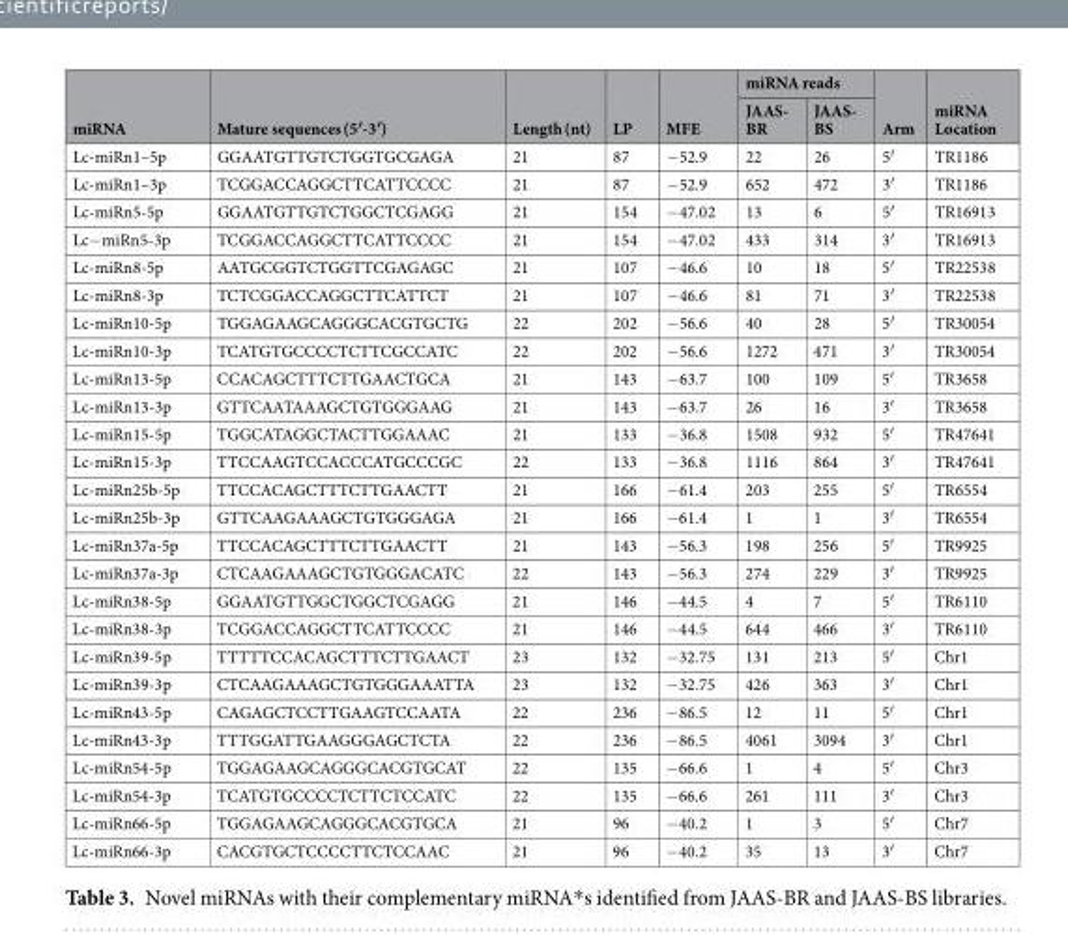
<table><thead><tr><td rowspan="2">miRNA</td><td rowspan="2">Mature sequences (5′-3′)</td><td rowspan="2">Length (nt)</td><td rowspan="2">LP</td><td rowspan="2">MFE</td><td colspan="2">miRNA reads</td><td rowspan="2">Arm</td><td rowspan="2">miRNA Location</td></tr><tr><td>JAAS- BR</td><td>JAAS- BS</td></tr></thead><tbody><tr><td>Lc-miRn1–5p</td><td>GGAATGTTGTCTGGTGCGAGA</td><td>21</td><td>87</td><td>−52.9</td><td>22</td><td>26</td><td>5′</td><td>TR1186</td></tr><tr><td>Lc-miRn1–3p</td><td>TCGGACCAGGCTTCATTCCCC</td><td>21</td><td>87</td><td>−52.9</td><td>652</td><td>472</td><td>3′</td><td>TR1186</td></tr><tr><td>Lc-miRn5-5p</td><td>GGAATGTTGTCTGGCTCGAGG</td><td>21</td><td>154</td><td>−47.02</td><td>13</td><td>6</td><td>5′</td><td>TR16913</td></tr><tr><td>Lc−miRn5-3p</td><td>TCGGACCAGGCTTCATTCCCC</td><td>21</td><td>154</td><td>−47.02</td><td>433</td><td>314</td><td>3′</td><td>TR16913</td></tr><tr><td>Lc-miRn8-5p</td><td>AATGCGGTCTGGTTCGAGAGC</td><td>21</td><td>107</td><td>−46.6</td><td>10</td><td>18</td><td>5′</td><td>TR22538</td></tr><tr><td>Lc-miRn8-3p</td><td>TCTCGGACCAGGCTTCATTCT</td><td>21</td><td>107</td><td>−46.6</td><td>81</td><td>71</td><td>3′</td><td>TR22538</td></tr><tr><td>Lc-miRn10-5p</td><td>TGGAGAAGCAGGGCACGTGCTG</td><td>22</td><td>202</td><td>−56.6</td><td>40</td><td>28</td><td>5′</td><td>TR30054</td></tr><tr><td>Lc-miRn10-3p</td><td>TCATGTGCCCCTCTTCGCCATC</td><td>22</td><td>202</td><td>−56.6</td><td>1272</td><td>471</td><td>3′</td><td>TR30054</td></tr><tr><td>Lc-miRn13-5p</td><td>CCACAGCTTTCTTGAACTGCA</td><td>21</td><td>143</td><td>−63.7</td><td>100</td><td>109</td><td>5′</td><td>TR3658</td></tr><tr><td>Lc-miRn13-3p</td><td>GTTCAATAAAGCTGTGGGAAG</td><td>21</td><td>143</td><td>−63.7</td><td>26</td><td>16</td><td>3′</td><td>TR3658</td></tr><tr><td>Lc-miRn15-5p</td><td>TGGCATAGGCTACTTGGAAAC</td><td>21</td><td>133</td><td>−36.8</td><td>1508</td><td>932</td><td>5′</td><td>TR47641</td></tr><tr><td>Lc-miRn15-3p</td><td>TTCCAAGTCCACCCATGCCCGC</td><td>22</td><td>133</td><td>−36.8</td><td>1116</td><td>864</td><td>3′</td><td>TR47641</td></tr><tr><td>Lc-miRn25b-5p</td><td>TTCCACAGCTTTCTTGAACTT</td><td>21</td><td>166</td><td>−61.4</td><td>203</td><td>255</td><td>5′</td><td>TR6554</td></tr><tr><td>Lc-miRn25b-3p</td><td>GTTCAAGAAAGCTGTGGGAGA</td><td>21</td><td>166</td><td>−61.4</td><td>1</td><td>1</td><td>3′</td><td>TR6554</td></tr><tr><td>Lc-miRn37a-5p</td><td>TTCCACAGCTTTCTTGAACTT</td><td>21</td><td>143</td><td>−56.3</td><td>198</td><td>256</td><td>5′</td><td>TR9925</td></tr><tr><td>Lc-miRn37a-3p</td><td>CTCAAGAAAGCTGTGGGACATC</td><td>22</td><td>143</td><td>−56.3</td><td>274</td><td>229</td><td>3′</td><td>TR9925</td></tr><tr><td>Lc-miRn38-5p</td><td>GGAATGTTGGCTGGCTCGAGG</td><td>21</td><td>146</td><td>−44.5</td><td>4</td><td>7</td><td>5′</td><td>TR6110</td></tr><tr><td>Lc-miRn38-3p</td><td>TCGGACCAGGCTTCATTCCCC</td><td>21</td><td>146</td><td>−44.5</td><td>644</td><td>466</td><td>3′</td><td>TR6110</td></tr><tr><td>Lc-miRn39-5p</td><td>TTTTTCCACAGCTTTCTTGAACT</td><td>23</td><td>132</td><td>−32.75</td><td>131</td><td>213</td><td>5′</td><td>Chr1</td></tr><tr><td>Lc-miRn39-3p</td><td>CTCAAGAAAGCTGTGGGAAATTA</td><td>23</td><td>132</td><td>−32.75</td><td>426</td><td>363</td><td>3′</td><td>Chr1</td></tr><tr><td>Lc-miRn43-5p</td><td>CAGAGCTCCTTGAAGTCCAATA</td><td>22</td><td>236</td><td>−86.5</td><td>12</td><td>11</td><td>5′</td><td>Chr1</td></tr><tr><td>Lc-miRn43-3p</td><td>TTTGGATTGAAGGGAGCTCTA</td><td>22</td><td>236</td><td>−86.5</td><td>4061</td><td>3094</td><td>3′</td><td>Chr1</td></tr><tr><td>Lc-miRn54-5p</td><td>TGGAGAAGCAGGGCACGTGCAT</td><td>22</td><td>135</td><td>−66.6</td><td>1</td><td>4</td><td>5′</td><td>Chr3</td></tr><tr><td>Lc-miRn54-3p</td><td>TCATGTGCCCCTCTTCTCCATC</td><td>22</td><td>135</td><td>−66.6</td><td>261</td><td>111</td><td>3′</td><td>Chr3</td></tr><tr><td>Lc-miRn66-5p</td><td>TGGAGAAGCAGGGCACGTGCA</td><td>21</td><td>96</td><td>−40.2</td><td>1</td><td>3</td><td>5′</td><td>Chr7</td></tr><tr><td>Lc-miRn66-3p</td><td>CACGTGCTCCCCTTCTCCAAC</td><td>21</td><td>96</td><td>−40.2</td><td>35</td><td>13</td><td>3′</td><td>Chr7</td></tr></tbody></table>